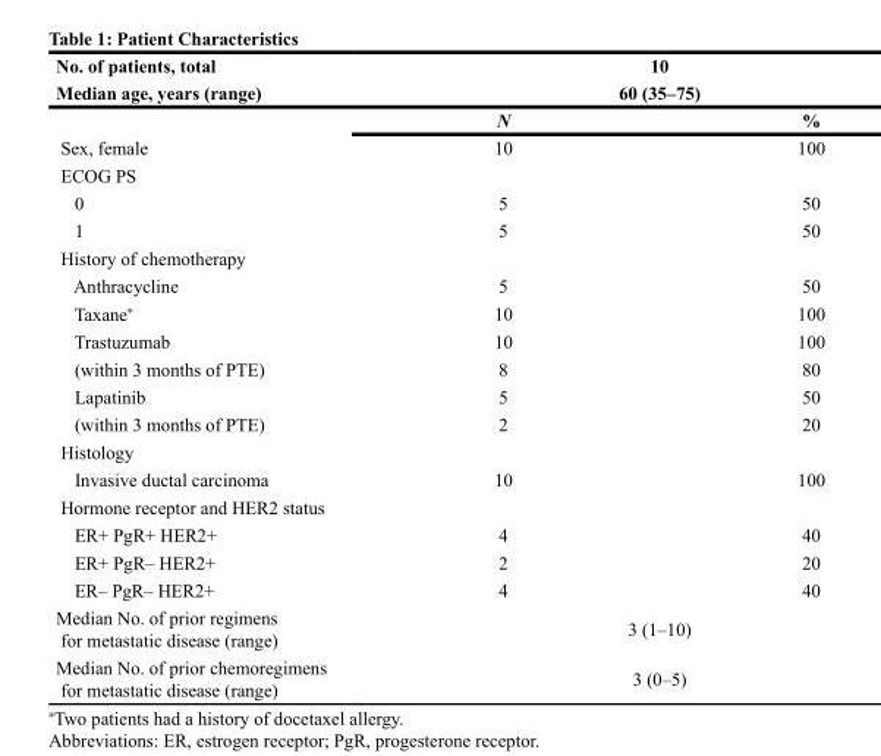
<table><thead><tr><td rowspan="2">No. of patients, total Median age, years (range)</td><td colspan="2">10 60 (35–75)</td></tr><tr><td>N</td><td>%</td></tr></thead><tbody><tr><td>Sex, female</td><td>10</td><td>100</td></tr><tr><td colspan="3">ECOG PS</td></tr><tr><td>0</td><td>5</td><td>50</td></tr><tr><td>1</td><td>5</td><td>50</td></tr><tr><td colspan="3">History of chemotherapy</td></tr><tr><td>Anthracycline</td><td>5</td><td>50</td></tr><tr><td>Taxane*</td><td>10</td><td>100</td></tr><tr><td>Trastuzumab</td><td>10</td><td>100</td></tr><tr><td>(within 3 months of PTE)</td><td>8</td><td>80</td></tr><tr><td>Lapatinib</td><td>5</td><td>50</td></tr><tr><td>(within 3 months of PTE)</td><td>2</td><td>20</td></tr><tr><td colspan="3">Histology</td></tr><tr><td>Invasive ductal carcinoma</td><td>10</td><td>100</td></tr><tr><td colspan="3">Hormone receptor and HER2 status</td></tr><tr><td>ER+ PgR+ HER2+</td><td>4</td><td>40</td></tr><tr><td>ER+ PgR– HER2+</td><td>2</td><td>20</td></tr><tr><td>ER– PgR– HER2+</td><td>4</td><td>40</td></tr><tr><td>Median No. of prior regimens for metastatic disease (range)</td><td colspan="2">3 (1–10)</td></tr><tr><td>Median No. of prior chemoregimens for metastatic disease (range)</td><td colspan="2">3 (0–5)</td></tr></tbody></table>